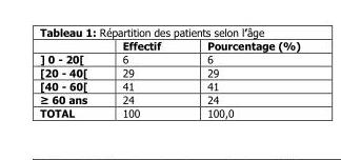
<table><thead><tr><td></td><td>Effectif</td><td>Pourcentage (%)</td></tr></thead><tbody><tr><td>] 0 - 20[</td><td>6</td><td>6</td></tr><tr><td>[20 - 40[</td><td>29</td><td>29</td></tr><tr><td>[40 - 60[</td><td>41</td><td>41</td></tr><tr><td>≥ 60 ans</td><td>24</td><td>24</td></tr><tr><td>TOTAL</td><td>100</td><td>100,0</td></tr></tbody></table>